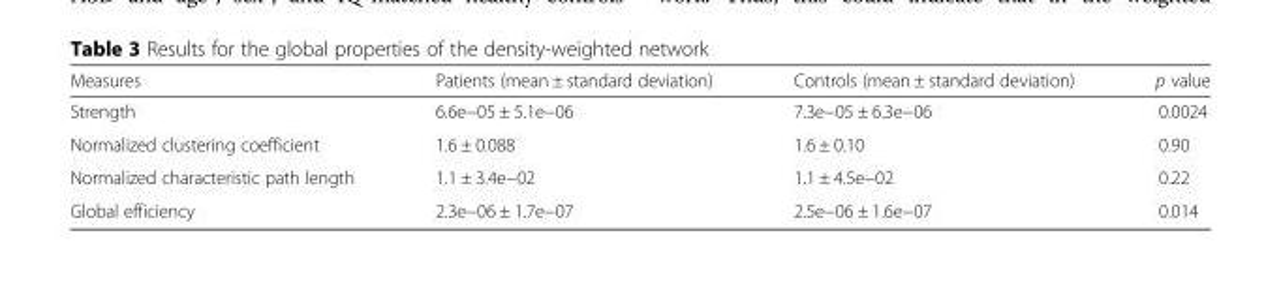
<table><thead><tr><td>Measures</td><td>Patients (mean ± standard deviation)</td><td>Controls (mean ± standard deviation)</td><td>p value</td></tr></thead><tbody><tr><td>Strength</td><td>6.6e−05 ± 5.1e−06</td><td>7.3e−05 ± 6.3e−06</td><td>0.0024</td></tr><tr><td>Normalized clustering coefficient</td><td>1.6 ± 0.088</td><td>1.6 ± 0.10</td><td>0.90</td></tr><tr><td>Normalized characteristic path length</td><td>1.1 ± 3.4e−02</td><td>1.1 ± 4.5e−02</td><td>0.22</td></tr><tr><td>Global efficiency</td><td>2.3e−06 ± 1.7e−07</td><td>2.5e−06 ± 1.6e−07</td><td>0.014</td></tr></tbody></table>